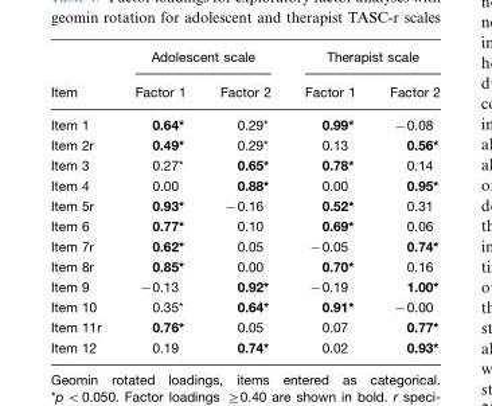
<table><thead><tr><td rowspan="2">Item</td><td colspan="2">Adolescent scale</td><td colspan="2">Therapist scale</td></tr><tr><td>Factor 1</td><td>Factor 2</td><td>Factor 1</td><td>Factor 2</td></tr></thead><tbody><tr><td>Item 1</td><td>0.64*</td><td>0.29*</td><td>0.99*</td><td>−0.08</td></tr><tr><td>Item 2r</td><td>0.49*</td><td>0.29*</td><td>0.13</td><td>0.56*</td></tr><tr><td>Item 3</td><td>0.27*</td><td>0.65*</td><td>0.78*</td><td>0.14</td></tr><tr><td>Item 4</td><td>0.00</td><td>0.88*</td><td>0.00</td><td>0.95*</td></tr><tr><td>Item 5r</td><td>0.93*</td><td>−0.16</td><td>0.52*</td><td>0.31</td></tr><tr><td>Item 6</td><td>0.77*</td><td>0.10</td><td>0.69*</td><td>0.06</td></tr><tr><td>Item 7r</td><td>0.62*</td><td>0.05</td><td>−0.05</td><td>0.74*</td></tr><tr><td>Item 8r</td><td>0.85*</td><td>0.00</td><td>0.70*</td><td>0.16</td></tr><tr><td>Item 9</td><td>−0.13</td><td>0.92*</td><td>−0.19</td><td>1.00*</td></tr><tr><td>Item 10</td><td>0.35*</td><td>0.64*</td><td>0.91*</td><td>−0.00</td></tr><tr><td>Item 11r</td><td>0.76*</td><td>0.05</td><td>0.07</td><td>0.77*</td></tr><tr><td>Item 12</td><td>0.19</td><td>0.74*</td><td>0.02</td><td>0.93*</td></tr></tbody></table>